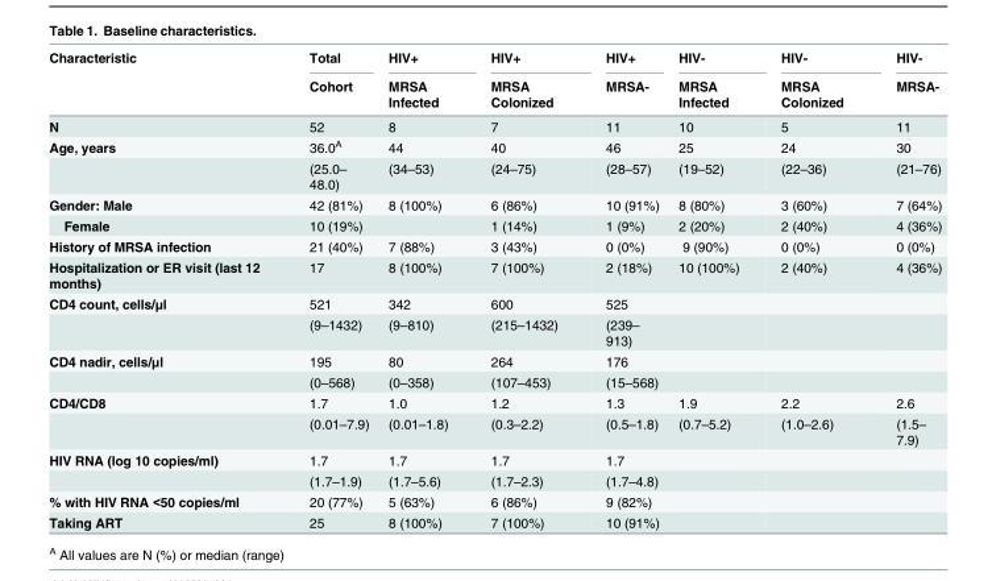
<table><thead><tr><td rowspan="2">Characteristic</td><td rowspan="2">Total Cohort</td><td rowspan="2">HIV+ MRSA Infected</td><td rowspan="2">HIV+ MRSA Colonized</td><td rowspan="2">HIV+ MRSA-</td><td rowspan="2">HIV- MRSA Infected</td><td rowspan="2">HIV- MRSA Colonized</td><td rowspan="2">HIV- MRSA-</td></tr><tr></tr></thead><tbody><tr><td>N</td><td>52</td><td>8</td><td>7</td><td>11</td><td>10</td><td>5</td><td>11</td></tr><tr><td rowspan="2">Age, years</td><td>36.0<sup>A</sup></td><td>44</td><td>40</td><td>46</td><td>25</td><td>24</td><td>30</td></tr><tr><td>(25.0– 48.0)</td><td>(34–53)</td><td>(24–75)</td><td>(28–57)</td><td>(19–52)</td><td>(22–36)</td><td>(21–76)</td></tr><tr><td>Gender: Male</td><td>42 (81%)</td><td>8 (100%)</td><td>6 (86%)</td><td>10 (91%)</td><td>8 (80%)</td><td>3 (60%)</td><td>7 (64%)</td></tr><tr><td>Female</td><td>10 (19%)</td><td></td><td>1 (14%)</td><td>1 (9%)</td><td>2 (20%)</td><td>2 (40%)</td><td>4 (36%)</td></tr><tr><td>History of MRSA infection</td><td>21 (40%)</td><td>7 (88%)</td><td>3 (43%)</td><td>0 (0%)</td><td>9 (90%)</td><td>0 (0%)</td><td>0 (0%)</td></tr><tr><td>Hospitalization or ER visit (last 12 months)</td><td>17</td><td>8 (100%)</td><td>7 (100%)</td><td>2 (18%)</td><td>10 (100%)</td><td>2 (40%)</td><td>4 (36%)</td></tr><tr><td rowspan="2">CD4 count, cells/μl</td><td>521</td><td>342</td><td>600</td><td>525</td><td></td><td></td><td></td></tr><tr><td>(9–1432)</td><td>(9–810)</td><td>(215–1432)</td><td>(239– 913)</td><td></td><td></td><td></td></tr><tr><td rowspan="2">CD4 nadir, cells/μl</td><td>195</td><td>80</td><td>264</td><td>176</td><td></td><td></td><td></td></tr><tr><td>(0–568)</td><td>(0–358)</td><td>(107–453)</td><td>(15–568)</td><td></td><td></td><td></td></tr><tr><td rowspan="2">CD4/CD8</td><td>1.7</td><td>1.0</td><td>1.2</td><td>1.3</td><td>1.9</td><td>2.2</td><td>2.6</td></tr><tr><td>(0.01–7.9)</td><td>(0.01–1.8)</td><td>(0.3–2.2)</td><td>(0.5–1.8)</td><td>(0.7–5.2)</td><td>(1.0–2.6)</td><td>(1.5– 7.9)</td></tr><tr><td rowspan="2">HIV RNA (log 10 copies/ml)</td><td>1.7</td><td>1.7</td><td>1.7</td><td>1.7</td><td></td><td></td><td></td></tr><tr><td>(1.7–1.9)</td><td>(1.7–5.6)</td><td>(1.7–2.3)</td><td>(1.7–4.8)</td><td></td><td></td><td></td></tr><tr><td>% with HIV RNA &lt;50 copies/ml</td><td>20 (77%)</td><td>5 (63%)</td><td>6 (86%)</td><td>9 (82%)</td><td></td><td></td><td></td></tr><tr><td>Taking ART</td><td>25</td><td>8 (100%)</td><td>7 (100%)</td><td>10 (91%)</td><td></td><td></td><td></td></tr></tbody></table>